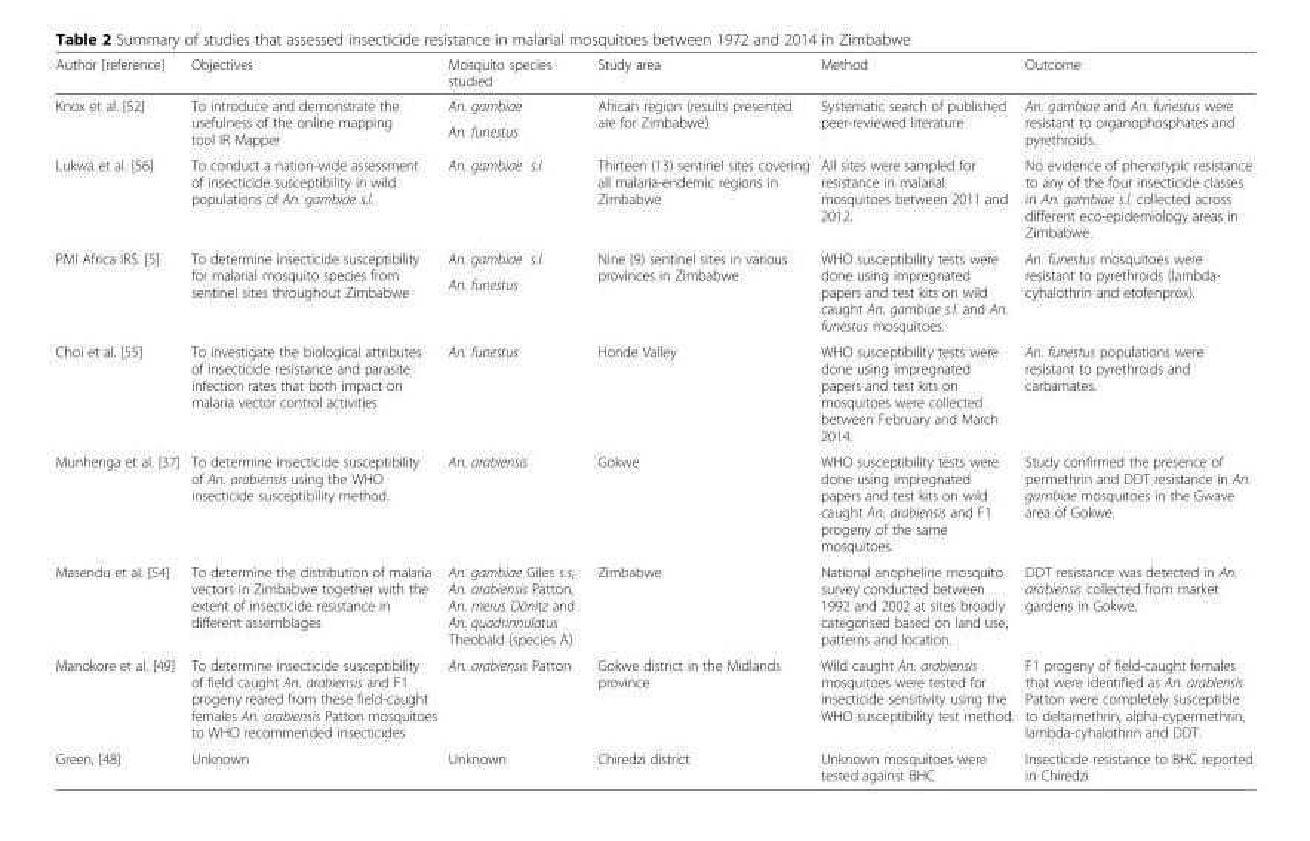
<table><thead><tr><td>Author [reference]</td><td>Objectives</td><td>Mosquito species studied</td><td>Study area</td><td>Method</td><td>Outcome</td></tr></thead><tbody><tr><td rowspan="2">Knox et al. [52]</td><td rowspan="2">To introduce and demonstrate the usefulness of the online mapping tool IR Mapper</td><td>An. gambiae</td><td rowspan="2">African region (results presented are for Zimbabwe)</td><td rowspan="2">Systematic search of published peer-reviewed literature</td><td rowspan="2">An. gambiae and An. funestus were resistant to organophosphates and pyrethroids.</td></tr><tr><td>An. funestus</td></tr><tr><td>Lukwa et al. [56]</td><td>To conduct a nation-wide assessment of insecticide susceptibility in wild populations of An. gambiae s.l.</td><td>An. gambiae s.l</td><td>Thirteen (13) sentinel sites covering all malaria-endemic regions in Zimbabwe</td><td>All sites were sampled for resistance in malarial mosquitoes between 2011 and 2012.</td><td>No evidence of phenotypic resistance to any of the four insecticide classes in An. gambiae s.l. collected across different eco-epidemiology areas in Zimbabwe.</td></tr><tr><td rowspan="2">PMI Africa IRS. [5]</td><td rowspan="2">To determine insecticide susceptibility for malarial mosquito species from sentinel sites throughout Zimbabwe</td><td>An. gambiae s.l</td><td rowspan="2">Nine (9) sentinel sites in various provinces in Zimbabwe</td><td rowspan="2">WHO susceptibility tests were done using impregnated papers and test kits on wild caught An. gambiae s.l. and An. funestus mosquitoes.</td><td rowspan="2">An. funestus mosquitoes were resistant to pyrethroids (lambda- cyhalothrin and etofenprox).</td></tr><tr><td>An. funestus</td></tr><tr><td>Choi et al. [55]</td><td>To investigate the biological attributes of insecticide resistance and parasite infection rates that both impact on malaria vector control activities</td><td>An. funestus</td><td>Honde Valley</td><td>WHO susceptibility tests were done using impregnated papers and test kits on mosquitoes were collected between February and March 2014.</td><td>An. funestus populations were resistant to pyrethroids and carbamates.</td></tr><tr><td>Munhenga et al. [37]</td><td>To determine insecticide susceptibility of An. arabiensis using the WHO insecticide susceptibility method.</td><td>An. arabiensis</td><td>Gokwe</td><td>WHO susceptibility tests were done using impregnated papers and test kits on wild caught An. arabiensis and F1 progeny of the same mosquitoes.</td><td>Study confirmed the presence of permethrin and DDT resistance in An. gambiae mosquitoes in the Gwave area of Gokwe.</td></tr><tr><td>Masendu et al. [54]</td><td>To determine the distribution of malaria vectors in Zimbabwe together with the extent of insecticide resistance in different assemblages</td><td>An. gambiae Giles s.s, An. arabiensis Patton, An. merus Dönitz and An. quadrinnulatus Theobald (species A).</td><td>Zimbabwe</td><td>National anopheline mosquito survey conducted between 1992 and 2002 at sites broadly categorised based on land use, patterns and location.</td><td>DDT resistance was detected in An. arabiensis collected from market gardens in Gokwe.</td></tr><tr><td>Manokore et al. [49]</td><td>To determine insecticide susceptibility of field caught An. arabiensis and F1 progeny reared from these field-caught females An. arabiensis Patton mosquitoes to WHO recommended insecticides</td><td>An. arabiensis Patton</td><td>Gokwe district in the Midlands province</td><td>Wild caught An. arabiensis mosquitoes were tested for insecticide sensitivity using the WHO susceptibility test method.</td><td>F1 progeny of field-caught females that were identified as An. arabiensis Patton were completely susceptible to deltamethrin, alpha-cypermethrin, lambda-cyhalothrin and DDT.</td></tr><tr><td>Green, [48]</td><td>Unknown</td><td>Unknown</td><td>Chiredzi district</td><td>Unknown mosquitoes were tested against BHC</td><td>Insecticide resistance to BHC reported in Chiredzi</td></tr></tbody></table>